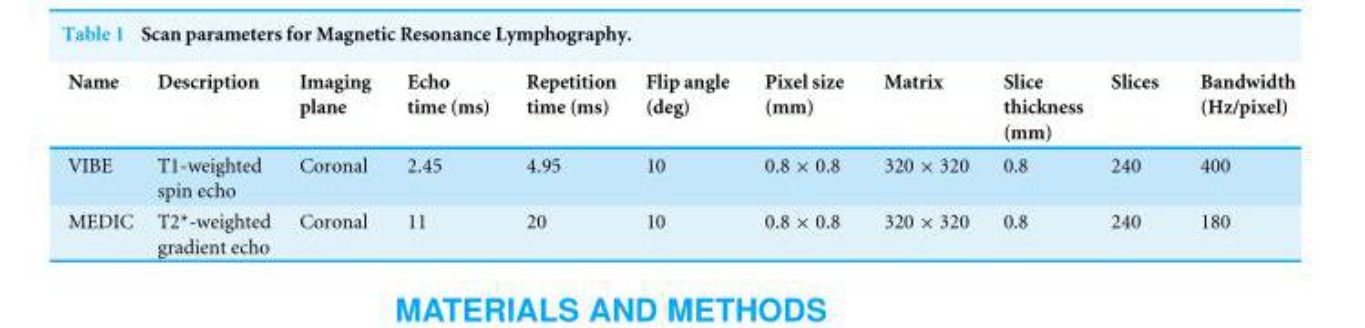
<table><thead><tr><td>Name</td><td>Description</td><td>Imaging plane</td><td>Echo time (ms)</td><td>Repetition time (ms)</td><td>Flip angle (deg)</td><td>Pixel size (mm)</td><td>Matrix</td><td>Slice thickness (mm)</td><td>Slices</td><td>Bandwidth (Hz/pixel)</td></tr></thead><tbody><tr><td>VIBE</td><td>T1-weighted spin echo</td><td>Coronal</td><td>2.45</td><td>4.95</td><td>10</td><td>0.8 × 0.8</td><td>320 × 320</td><td>0.8</td><td>240</td><td>400</td></tr><tr><td>MEDIC</td><td>T2*-weighted gradient echo</td><td>Coronal</td><td>11</td><td>20</td><td>10</td><td>0.8 × 0.8</td><td>320 × 320</td><td>0.8</td><td>240</td><td>180</td></tr></tbody></table>